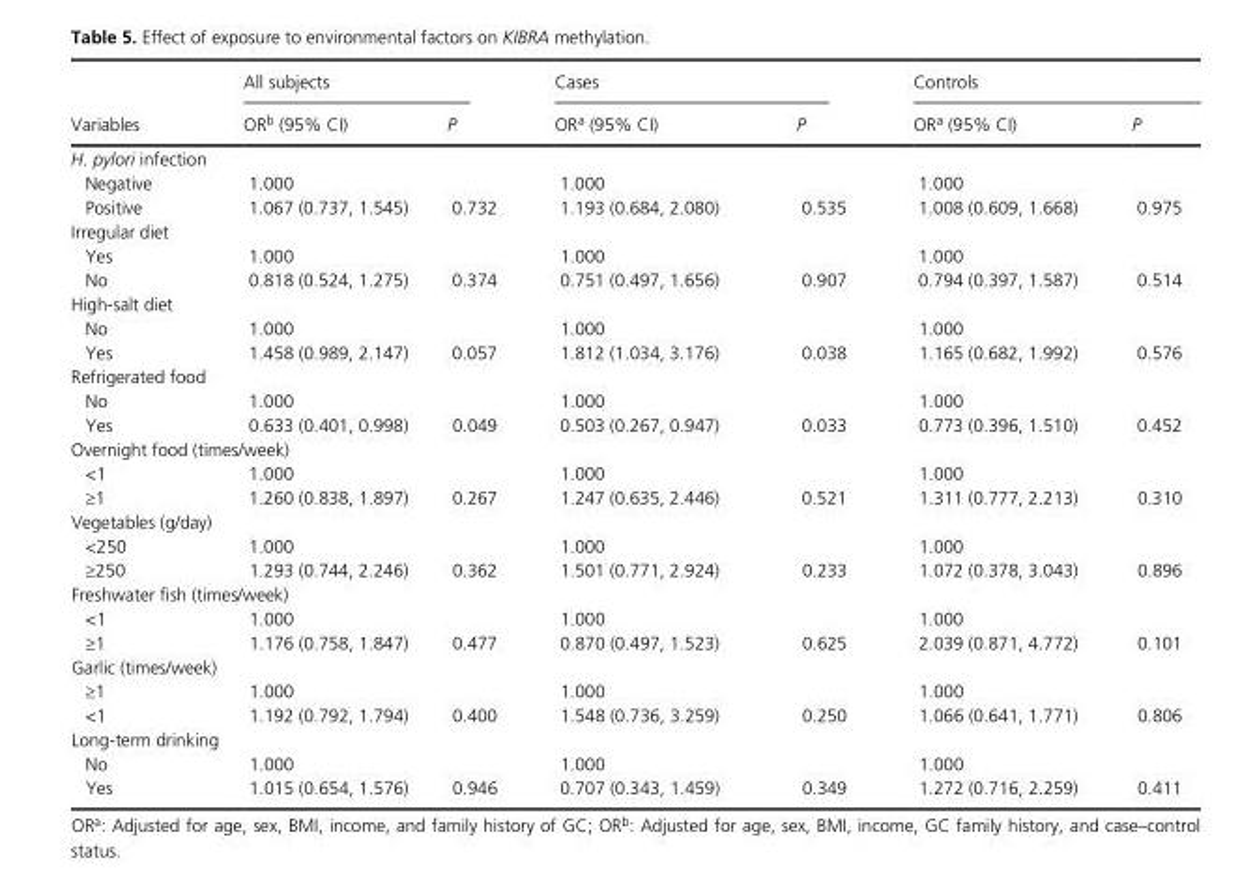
<table><thead><tr><td rowspan="2">Variables</td><td colspan="2">All subjects</td><td colspan="2">Cases</td><td colspan="2">Controls</td></tr><tr><td>OR<sup>b</sup> (95% CI)</td><td>P</td><td>OR<sup>a</sup> (95% CI)</td><td>P</td><td>OR<sup>a</sup> (95% CI)</td><td>P</td></tr></thead><tbody><tr><td colspan="7">H. pylori infection</td></tr><tr><td>Negative</td><td>1.000</td><td></td><td>1.000</td><td></td><td>1.000</td><td></td></tr><tr><td>Positive</td><td>1.067 (0.737, 1.545)</td><td>0.732</td><td>1.193 (0.684, 2.080)</td><td>0.535</td><td>1.008 (0.609, 1.668)</td><td>0.975</td></tr><tr><td colspan="7">Irregular diet</td></tr><tr><td>Yes</td><td>1.000</td><td></td><td>1.000</td><td></td><td>1.000</td><td></td></tr><tr><td>No</td><td>0.818 (0.524, 1.275)</td><td>0.374</td><td>0.751 (0.497, 1.656)</td><td>0.907</td><td>0.794 (0.397, 1.587)</td><td>0.514</td></tr><tr><td colspan="7">High- salt diet</td></tr><tr><td>No</td><td>1.000</td><td></td><td>1.000</td><td></td><td>1.000</td><td></td></tr><tr><td>Yes</td><td>1.458 (0.989, 2.147)</td><td>0.057</td><td>1.812 (1.034, 3.176)</td><td>0.038</td><td>1.165 (0.682, 1.992)</td><td>0.576</td></tr><tr><td colspan="7">Refrigerated food</td></tr><tr><td>No</td><td>1.000</td><td></td><td>1.000</td><td></td><td>1.000</td><td></td></tr><tr><td>Yes</td><td>0.633 (0.401, 0.998)</td><td>0.049</td><td>0.503 (0.267, 0.947)</td><td>0.033</td><td>0.773 (0.396, 1.510)</td><td>0.452</td></tr><tr><td colspan="7">Overnight food (times/week)</td></tr><tr><td>&lt;1</td><td>1.000</td><td></td><td>1.000</td><td></td><td>1.000</td><td></td></tr><tr><td>≥1</td><td>1.260 (0.838, 1.897)</td><td>0.267</td><td>1.247 (0.635, 2.446)</td><td>0.521</td><td>1.311 (0.777, 2.213)</td><td>0.310</td></tr><tr><td colspan="7">Vegetables (g/day)</td></tr><tr><td>&lt;250</td><td>1.000</td><td></td><td>1.000</td><td></td><td>1.000</td><td></td></tr><tr><td>≥250</td><td>1.293 (0.744, 2.246)</td><td>0.362</td><td>1.501 (0.771, 2.924)</td><td>0.233</td><td>1.072 (0.378, 3.043)</td><td>0.896</td></tr><tr><td colspan="7">Freshwater fish (times/week)</td></tr><tr><td>&lt;1</td><td>1.000</td><td></td><td>1.000</td><td></td><td>1.000</td><td></td></tr><tr><td>≥1</td><td>1.176 (0.758, 1.847)</td><td>0.477</td><td>0.870 (0.497, 1.523)</td><td>0.625</td><td>2.039 (0.871, 4.772)</td><td>0.101</td></tr><tr><td colspan="7">Garlic (times/week)</td></tr><tr><td>≥1</td><td>1.000</td><td></td><td>1.000</td><td></td><td>1.000</td><td></td></tr><tr><td>&lt;1</td><td>1.192 (0.792, 1.794)</td><td>0.400</td><td>1.548 (0.736, 3.259)</td><td>0.250</td><td>1.066 (0.641, 1.771)</td><td>0.806</td></tr><tr><td colspan="7">Long- term drinking</td></tr><tr><td>No</td><td>1.000</td><td></td><td>1.000</td><td></td><td>1.000</td><td></td></tr><tr><td>Yes</td><td>1.015 (0.654, 1.576)</td><td>0.946</td><td>0.707 (0.343, 1.459)</td><td>0.349</td><td>1.272 (0.716, 2.259)</td><td>0.411</td></tr></tbody></table>